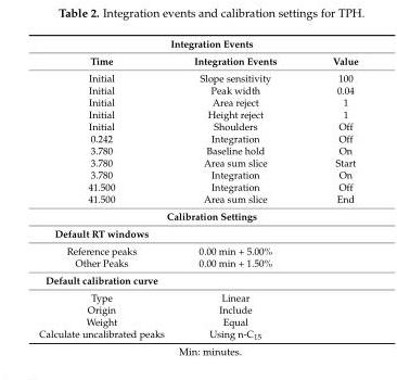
<table><tbody><tr><td colspan="3">Integration Events</td></tr><tr><td>Time</td><td>Integration Events</td><td>Value</td></tr><tr><td>Initial</td><td>Slope sensitivity</td><td>100</td></tr><tr><td>Initial</td><td>Peak width</td><td>0.04</td></tr><tr><td>Initial</td><td>Area reject</td><td>1</td></tr><tr><td>Initial</td><td>Height reject</td><td>1</td></tr><tr><td>Initial</td><td>Shoulders</td><td>Off</td></tr><tr><td>0.242</td><td>Integration</td><td>Off</td></tr><tr><td>3.780</td><td>Baseline hold</td><td>On</td></tr><tr><td>3.780</td><td>Area sum slice</td><td>Start</td></tr><tr><td>3.780</td><td>Integration</td><td>On</td></tr><tr><td>41.500</td><td>Integration</td><td>Off</td></tr><tr><td>41.500</td><td>Area sum slice</td><td>End</td></tr><tr><td colspan="3">Calibration Settings</td></tr><tr><td colspan="3">Default RT windows</td></tr><tr><td>Reference peaks</td><td>0.00 min + 5.00%</td><td></td></tr><tr><td>Other Peaks</td><td>0.00 min + 1.50%</td><td></td></tr><tr><td colspan="3">Default calibration curve</td></tr><tr><td>Type</td><td>Linear</td><td></td></tr><tr><td>Origin</td><td>Include</td><td></td></tr><tr><td>Weight</td><td>Equal</td><td></td></tr><tr><td>Calculate uncalibrated peaks</td><td>Using n-C<sub>15</sub></td><td></td></tr></tbody></table>